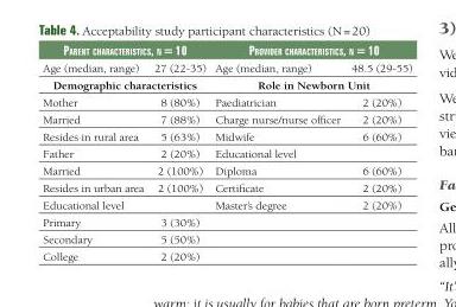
<table><thead><tr><td colspan="2">pareNt characteristics, N = 10</td><td colspan="2">provider characteristics, N = 10</td></tr><tr><td>Age (median, range)</td><td>27 (22-35)</td><td>Age (median, range)</td><td>48.5 (29-55)</td></tr></thead><tbody><tr><td colspan="2">Demographic characteristics</td><td colspan="2">Role in Newborn Unit</td></tr><tr><td>Mother</td><td>8 (80%)</td><td>Paediatrician</td><td>2 (20%)</td></tr><tr><td>Married</td><td>7 (88%)</td><td>Charge nurse/nurse officer</td><td>2 (20%)</td></tr><tr><td>Resides in rural area</td><td>5 (63%)</td><td>Midwife</td><td>6 (60%)</td></tr><tr><td>Father</td><td>2 (20%)</td><td colspan="2">Educational level</td></tr><tr><td>Married</td><td>2 (100%)</td><td>Diploma</td><td>6 (60%)</td></tr><tr><td>Resides in urban area</td><td>2 (100%)</td><td>Certificate</td><td>2 (20%)</td></tr><tr><td colspan="2">Educational level</td><td>Master’s degree</td><td>2 (20%)</td></tr><tr><td>Primary</td><td>3 (30%)</td><td colspan="2"></td></tr><tr><td>Secondary</td><td>5 (50%)</td><td colspan="2"></td></tr><tr><td>College</td><td>2 (20%)</td><td colspan="2"></td></tr></tbody></table>